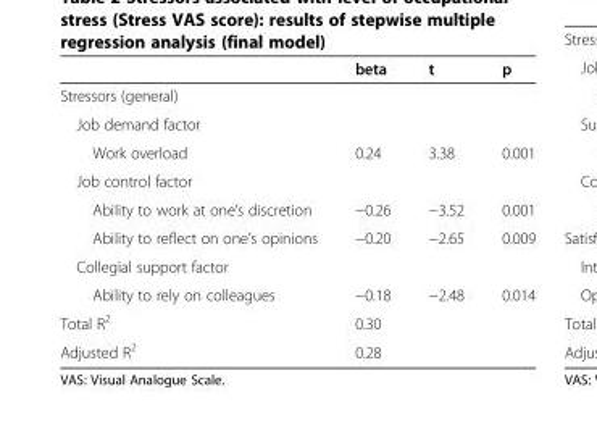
<table><thead><tr><td></td><td>beta</td><td>t</td><td>p</td></tr></thead><tbody><tr><td colspan="4">Stressors (general)</td></tr><tr><td colspan="4">Job demand factor</td></tr><tr><td>Work overload</td><td>0.24</td><td>3.38</td><td>0.001</td></tr><tr><td colspan="4">Job control factor</td></tr><tr><td>Ability to work at one’s discretion</td><td>−0.26</td><td>−3.52</td><td>0.001</td></tr><tr><td>Ability to reflect on one’s opinions</td><td>−0.20</td><td>−2.65</td><td>0.009</td></tr><tr><td colspan="4">Collegial support factor</td></tr><tr><td>Ability to rely on colleagues</td><td>−0.18</td><td>−2.48</td><td>0.014</td></tr><tr><td>Total R<sup>2</sup></td><td>0.30</td><td></td><td></td></tr><tr><td>Adjusted R<sup>2</sup></td><td>0.28</td><td></td><td></td></tr></tbody></table>